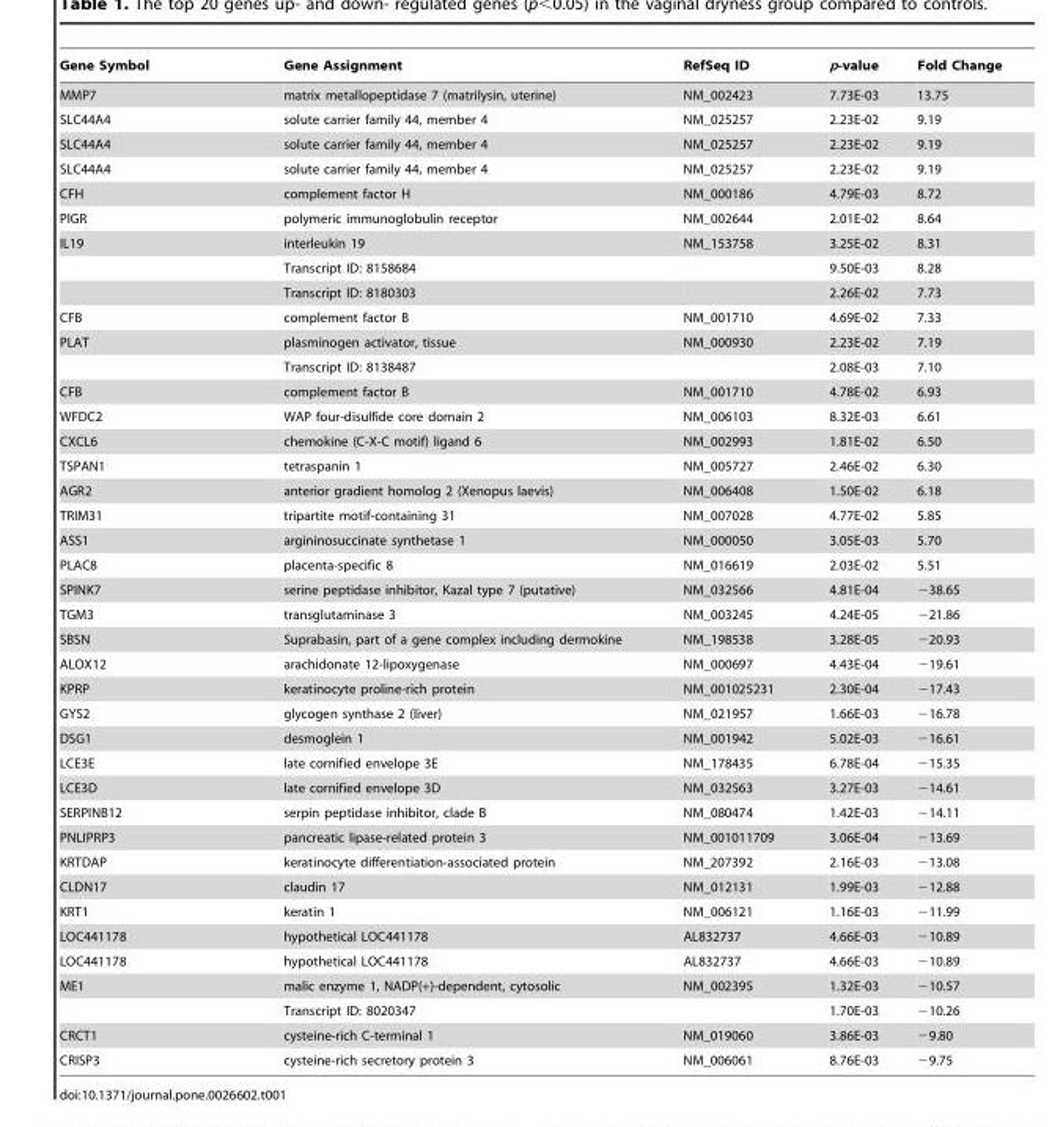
<table><thead><tr><td>Gene Symbol</td><td>Gene Assignment</td><td>RefSeq ID</td><td>p-value</td><td>Fold Change</td></tr></thead><tbody><tr><td>MMP7</td><td>matrix metallopeptidase 7 (matrilysin, uterine)</td><td>NM_002423</td><td>7.73E-03</td><td>13.75</td></tr><tr><td>SLC44A4</td><td>solute carrier family 44, member 4</td><td>NM_025257</td><td>2.23E-02</td><td>9.19</td></tr><tr><td>SLC44A4</td><td>solute carrier family 44, member 4</td><td>NM_025257</td><td>2.23E-02</td><td>9.19</td></tr><tr><td>SLC44A4</td><td>solute carrier family 44, member 4</td><td>NM_025257</td><td>2.23E-02</td><td>9.19</td></tr><tr><td>CFH</td><td>complement factor H</td><td>NM_000186</td><td>4.79E-03</td><td>8.72</td></tr><tr><td>PIGR</td><td>polymeric immunoglobulin receptor</td><td>NM_002644</td><td>2.01E-02</td><td>8.64</td></tr><tr><td rowspan="3">IL19</td><td>interleukin 19</td><td>NM_153758</td><td>3.25E-02</td><td>8.31</td></tr><tr><td>Transcript ID: 8158684</td><td></td><td>9.50E-03</td><td>8.28</td></tr><tr><td>Transcript ID: 8180303</td><td></td><td>2.26E-02</td><td>7.73</td></tr><tr><td>CFB</td><td>complement factor B</td><td>NM_001710</td><td>4.69E-02</td><td>7.33</td></tr><tr><td rowspan="2">PLAT</td><td>plasminogen activator, tissue</td><td>NM_000930</td><td>2.23E-02</td><td>7.19</td></tr><tr><td>Transcript ID: 8138487</td><td></td><td>2.08E-03</td><td>7.10</td></tr><tr><td>CFB</td><td>complement factor B</td><td>NM_001710</td><td>4.78E-02</td><td>6.93</td></tr><tr><td>WFDC2</td><td>WAP four-disulfide core domain 2</td><td>NM_006103</td><td>8.32E-03</td><td>6.61</td></tr><tr><td>CXCL6</td><td>chemokine (C-X-C motif) ligand 6</td><td>NM_002993</td><td>1.81E-02</td><td>6.50</td></tr><tr><td>TSPAN1</td><td>tetraspanin 1</td><td>NM_005727</td><td>2.46E-02</td><td>6.30</td></tr><tr><td>AGR2</td><td>anterior gradient homolog 2 (Xenopus laevis)</td><td>NM_006408</td><td>1.50E-02</td><td>6.18</td></tr><tr><td>TRIM31</td><td>tripartite motif-containing 31</td><td>NM_007028</td><td>4.77E-02</td><td>5.85</td></tr><tr><td>ASS1</td><td>argininosuccinate synthetase 1</td><td>NM_000050</td><td>3.05E-03</td><td>5.70</td></tr><tr><td>PLAC8</td><td>placenta-specific 8</td><td>NM_016619</td><td>2.03E-02</td><td>5.51</td></tr><tr><td>SPINK7</td><td>serine peptidase inhibitor, Kazal type 7 (putative)</td><td>NM_032566</td><td>4.81E-04</td><td>−38.65</td></tr><tr><td>TGM3</td><td>transglutaminase 3</td><td>NM_003245</td><td>4.24E-05</td><td>−21.86</td></tr><tr><td>SBSN</td><td>Suprabasin, part of a gene complex including dermokine</td><td>NM_198538</td><td>3.28E-05</td><td>−20.93</td></tr><tr><td>ALOX12</td><td>arachidonate 12-lipoxygenase</td><td>NM_000697</td><td>4.43E-04</td><td>−19.61</td></tr><tr><td>KPRP</td><td>keratinocyte proline-rich protein</td><td>NM_001025231</td><td>2.30E-04</td><td>−17.43</td></tr><tr><td>GYS2</td><td>glycogen synthase 2 (liver)</td><td>NM_021957</td><td>1.66E-03</td><td>−16.78</td></tr><tr><td>DSG1</td><td>desmoglein 1</td><td>NM_001942</td><td>5.02E-03</td><td>−16.61</td></tr><tr><td>LCE3E</td><td>late cornified envelope 3E</td><td>NM_178435</td><td>6.78E-04</td><td>−15.35</td></tr><tr><td>LCE3D</td><td>late cornified envelope 3D</td><td>NM_032563</td><td>3.27E-03</td><td>−14.61</td></tr><tr><td>SERPINB12</td><td>serpin peptidase inhibitor, clade B</td><td>NM_080474</td><td>1.42E-03</td><td>−14.11</td></tr><tr><td>PNLIPRP3</td><td>pancreatic lipase-related protein 3</td><td>NM_001011709</td><td>3.06E-04</td><td>−13.69</td></tr><tr><td>KRTDAP</td><td>keratinocyte differentiation-associated protein</td><td>NM_207392</td><td>2.16E-03</td><td>−13.08</td></tr><tr><td>CLDN17</td><td>claudin 17</td><td>NM_012131</td><td>1.99E-03</td><td>−12.88</td></tr><tr><td>KRT1</td><td>keratin 1</td><td>NM_006121</td><td>1.16E-03</td><td>−11.99</td></tr><tr><td>LOC441178</td><td>hypothetical LOC441178</td><td>AL832737</td><td>4.66E-03</td><td>−10.89</td></tr><tr><td>LOC441178</td><td>hypothetical LOC441178</td><td>AL832737</td><td>4.66E-03</td><td>−10.89</td></tr><tr><td rowspan="2">ME1</td><td>malic enzyme 1, NADP(+)-dependent, cytosolic</td><td>NM_002395</td><td>1.32E-03</td><td>−10.57</td></tr><tr><td>Transcript ID: 8020347</td><td></td><td>1.70E-03</td><td>−10.26</td></tr><tr><td>CRCT1</td><td>cysteine-rich C-terminal 1</td><td>NM_019060</td><td>3.86E-03</td><td>−9.80</td></tr><tr><td>CRISP3</td><td>cysteine-rich secretory protein 3</td><td>NM_006061</td><td>8.76E-03</td><td>−9.75</td></tr></tbody></table>